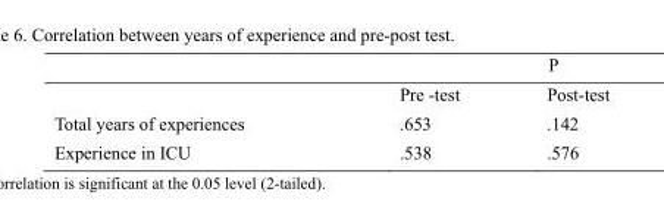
<table><thead><tr><td></td><td></td><td>P</td></tr></thead><tbody><tr><td></td><td>Pre -test</td><td>Post-test</td></tr><tr><td>Total years of experiences</td><td>.653</td><td>.142</td></tr><tr><td>Experience in ICU</td><td>.538</td><td>.576</td></tr></tbody></table>